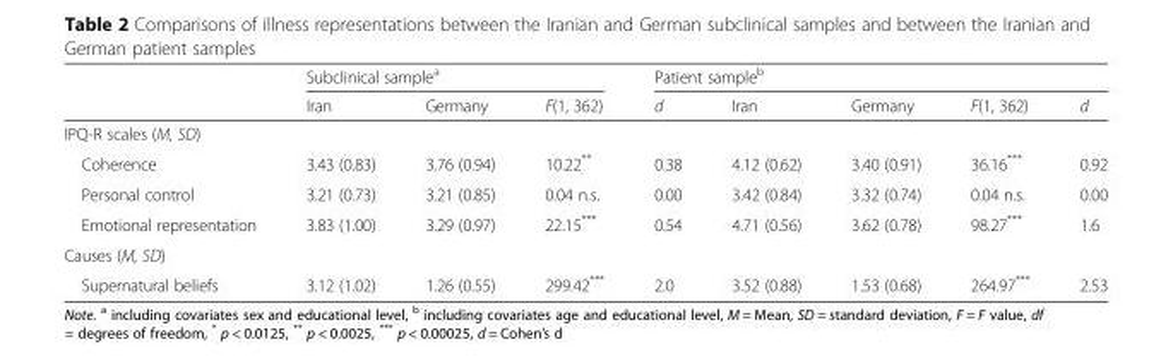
<table><thead><tr><td rowspan="2"></td><td colspan="3">Subclinical sample<sup>a</sup></td><td colspan="5">Patient sample<sup>b</sup></td></tr><tr><td>Iran</td><td>Germany</td><td>F(1, 362)</td><td>d</td><td>Iran</td><td>Germany</td><td>F(1, 362)</td><td>d</td></tr></thead><tbody><tr><td colspan="9">IPQ-R scales (M, SD)</td></tr><tr><td>Coherence</td><td>3.43 (0.83)</td><td>3.76 (0.94)</td><td>10.22**</td><td>0.38</td><td>4.12 (0.62)</td><td>3.40 (0.91)</td><td>36.16***</td><td>0.92</td></tr><tr><td>Personal control</td><td>3.21 (0.73)</td><td>3.21 (0.85)</td><td>0.04 n.s.</td><td>0.00</td><td>3.42 (0.84)</td><td>3.32 (0.74)</td><td>0.04 n.s.</td><td>0.00</td></tr><tr><td>Emotional representation</td><td>3.83 (1.00)</td><td>3.29 (0.97)</td><td>22.15***</td><td>0.54</td><td>4.71 (0.56)</td><td>3.62 (0.78)</td><td>98.27***</td><td>1.6</td></tr><tr><td colspan="9">Causes (M, SD)</td></tr><tr><td>Supernatural beliefs</td><td>3.12 (1.02)</td><td>1.26 (0.55)</td><td>299.42***</td><td>2.0</td><td>3.52 (0.88)</td><td>1.53 (0.68)</td><td>264.97***</td><td>2.53</td></tr></tbody></table>